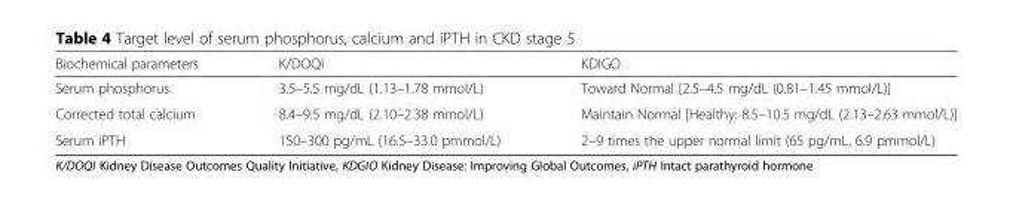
<table><thead><tr><td>Biochemical parameters</td><td>K/DOQI</td><td>KDIGO</td></tr></thead><tbody><tr><td>Serum phosphorus</td><td>3.5–5.5 mg/dL (1.13–1.78 mmol/L)</td><td>Toward Normal [2.5–4.5 mg/dL (0.81–1.45 mmol/L)]</td></tr><tr><td>Corrected total calcium</td><td>8.4–9.5 mg/dL (2.10–2.38 mmol/L)</td><td>Maintain Normal [Healthy: 8.5–10.5 mg/dL (2.13–2.63 mmol/L)]</td></tr><tr><td>Serum iPTH</td><td>150–300 pg/mL (16.5–33.0 pmmol/L)</td><td>2–9 times the upper normal limit (65 pg/mL, 6.9 pmmol/L)</td></tr></tbody></table>